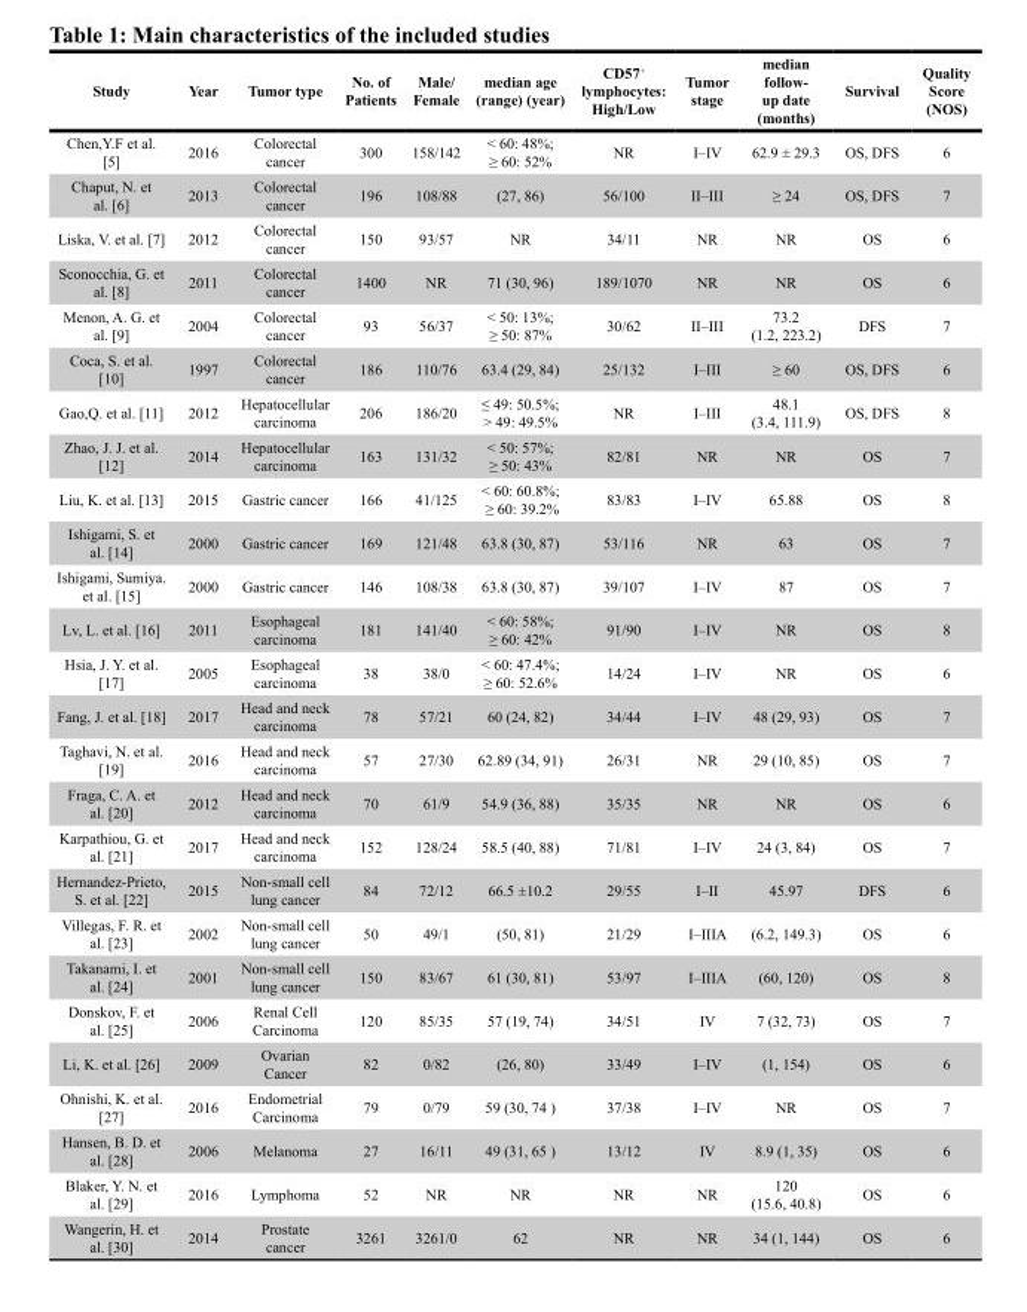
<table><thead><tr><td>Study</td><td>Year</td><td>Tumor type</td><td>No. of Patients</td><td>Male/ Female</td><td>median age (range) (year)</td><td>CD57<sup>+</sup> lymphocytes: High/Low</td><td>Tumor stage</td><td>median follow- up date (months)</td><td>Survival</td><td>Quality Score (NOS)</td></tr></thead><tbody><tr><td>Chen,Y.F et al. [5]</td><td>2016</td><td>Colorectal cancer</td><td>300</td><td>158/142</td><td>&lt; 60: 48%; ≥ 60: 52%</td><td>NR</td><td>I–IV</td><td>62.9 ± 29.3</td><td>OS, DFS</td><td>6</td></tr><tr><td>Chaput, N. et al. [6]</td><td>2013</td><td>Colorectal cancer</td><td>196</td><td>108/88</td><td>(27, 86)</td><td>56/100</td><td>II–III</td><td>≥ 24</td><td>OS, DFS</td><td>7</td></tr><tr><td>Liska, V. et al. [7]</td><td>2012</td><td>Colorectal cancer</td><td>150</td><td>93/57</td><td>NR</td><td>34/11</td><td>NR</td><td>NR</td><td>OS</td><td>6</td></tr><tr><td>Sconocchia, G. et al. [8]</td><td>2011</td><td>Colorectal cancer</td><td>1400</td><td>NR</td><td>71 (30, 96)</td><td>189/1070</td><td>NR</td><td>NR</td><td>OS</td><td>6</td></tr><tr><td>Menon, A. G. et al. [9]</td><td>2004</td><td>Colorectal cancer</td><td>93</td><td>56/37</td><td>&lt; 50: 13%; ≥ 50: 87%</td><td>30/62</td><td>II–III</td><td>73.2 (1.2, 223.2)</td><td>DFS</td><td>7</td></tr><tr><td>Coca, S. et al. [10]</td><td>1997</td><td>Colorectal cancer</td><td>186</td><td>110/76</td><td>63.4 (29, 84)</td><td>25/132</td><td>I–III</td><td>≥ 60</td><td>OS, DFS</td><td>6</td></tr><tr><td>Gao,Q. et al. [11]</td><td>2012</td><td>Hepatocellular carcinoma</td><td>206</td><td>186/20</td><td>≤ 49: 50.5%; &gt; 49: 49.5%</td><td>NR</td><td>I–III</td><td>48.1 (3.4, 111.9)</td><td>OS, DFS</td><td>8</td></tr><tr><td>Zhao, J. J. et al. [12]</td><td>2014</td><td>Hepatocellular carcinoma</td><td>163</td><td>131/32</td><td>&lt; 50: 57%; ≥ 50: 43%</td><td>82/81</td><td>NR</td><td>NR</td><td>OS</td><td>7</td></tr><tr><td>Liu, K. et al. [13]</td><td>2015</td><td>Gastric cancer</td><td>166</td><td>41/125</td><td>&lt; 60: 60.8%; ≥ 60: 39.2%</td><td>83/83</td><td>I–IV</td><td>65.88</td><td>OS</td><td>8</td></tr><tr><td>Ishigami, S. et al. [14]</td><td>2000</td><td>Gastric cancer</td><td>169</td><td>121/48</td><td>63.8 (30, 87)</td><td>53/116</td><td>NR</td><td>63</td><td>OS</td><td>7</td></tr><tr><td>Ishigami, Sumiya. et al. [15]</td><td>2000</td><td>Gastric cancer</td><td>146</td><td>108/38</td><td>63.8 (30, 87)</td><td>39/107</td><td>I–IV</td><td>87</td><td>OS</td><td>7</td></tr><tr><td>Lv, L. et al. [16]</td><td>2011</td><td>Esophageal carcinoma</td><td>181</td><td>141/40</td><td>&lt; 60: 58%; ≥ 60: 42%</td><td>91/90</td><td>I–IV</td><td>NR</td><td>OS</td><td>8</td></tr><tr><td>Hsia, J. Y. et al. [17]</td><td>2005</td><td>Esophageal carcinoma</td><td>38</td><td>38/0</td><td>&lt; 60: 47.4%; ≥ 60: 52.6%</td><td>14/24</td><td>I–IV</td><td>NR</td><td>OS</td><td>6</td></tr><tr><td>Fang, J. et al. [18]</td><td>2017</td><td>Head and neck carcinoma</td><td>78</td><td>57/21</td><td>60 (24, 82)</td><td>34/44</td><td>I–IV</td><td>48 (29, 93)</td><td>OS</td><td>7</td></tr><tr><td>Taghavi, N. et al. [19]</td><td>2016</td><td>Head and neck carcinoma</td><td>57</td><td>27/30</td><td>62.89 (34, 91)</td><td>26/31</td><td>NR</td><td>29 (10, 85)</td><td>OS</td><td>7</td></tr><tr><td>Fraga, C. A. et al. [20]</td><td>2012</td><td>Head and neck carcinoma</td><td>70</td><td>61/9</td><td>54.9 (36, 88)</td><td>35/35</td><td>NR</td><td>NR</td><td>OS</td><td>6</td></tr><tr><td>Karpathiou, G. et al. [21]</td><td>2017</td><td>Head and neck carcinoma</td><td>152</td><td>128/24</td><td>58.5 (40, 88)</td><td>71/81</td><td>I–IV</td><td>24 (3, 84)</td><td>OS</td><td>7</td></tr><tr><td>Hernandez-Prieto, S. et al. [22]</td><td>2015</td><td>Non-small cell lung cancer</td><td>84</td><td>72/12</td><td>66.5 ±10.2</td><td>29/55</td><td>I–II</td><td>45.97</td><td>DFS</td><td>6</td></tr><tr><td>Villegas, F. R. et al. [23]</td><td>2002</td><td>Non-small cell lung cancer</td><td>50</td><td>49/1</td><td>(50, 81)</td><td>21/29</td><td>I–IIIA</td><td>(6.2, 149.3)</td><td>OS</td><td>6</td></tr><tr><td>Takanami, I. et al. [24]</td><td>2001</td><td>Non-small cell lung cancer</td><td>150</td><td>83/67</td><td>61 (30, 81)</td><td>53/97</td><td>I–IIIA</td><td>(60, 120)</td><td>OS</td><td>8</td></tr><tr><td>Donskov, F. et al. [25]</td><td>2006</td><td>Renal Cell Carcinoma</td><td>120</td><td>85/35</td><td>57 (19, 74)</td><td>34/51</td><td>IV</td><td>7 (32, 73)</td><td>OS</td><td>7</td></tr><tr><td>Li, K. et al. [26]</td><td>2009</td><td>Ovarian Cancer</td><td>82</td><td>0/82</td><td>(26, 80)</td><td>33/49</td><td>I–IV</td><td>(1, 154)</td><td>OS</td><td>6</td></tr><tr><td>Ohnishi, K. et al. [27]</td><td>2016</td><td>Endometrial Carcinoma</td><td>79</td><td>0/79</td><td>59 (30, 74 )</td><td>37/38</td><td>I–IV</td><td>NR</td><td>OS</td><td>7</td></tr><tr><td>Hansen, B. D. et al. [28]</td><td>2006</td><td>Melanoma</td><td>27</td><td>16/11</td><td>49 (31, 65 )</td><td>13/12</td><td>IV</td><td>8.9 (1, 35)</td><td>OS</td><td>6</td></tr><tr><td>Blaker, Y. N. et al. [29]</td><td>2016</td><td>Lymphoma</td><td>52</td><td>NR</td><td>NR</td><td>NR</td><td>NR</td><td>120 (15.6, 40.8)</td><td>OS</td><td>6</td></tr><tr><td>Wangerin, H. et al. [30]</td><td>2014</td><td>Prostate cancer</td><td>3261</td><td>3261/0</td><td>62</td><td>NR</td><td>NR</td><td>34 (1, 144)</td><td>OS</td><td>6</td></tr></tbody></table>